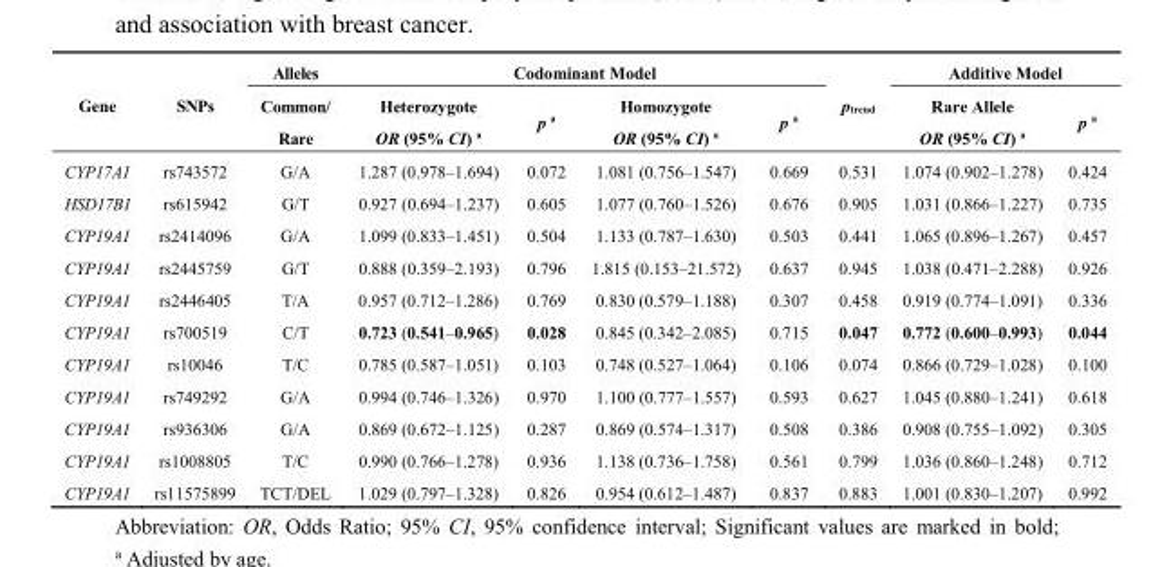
<table><thead><tr><td rowspan="2">Gene</td><td rowspan="2">SNPs</td><td rowspan="2">Alleles Common/ Rare</td><td colspan="4">Codominant Model</td><td rowspan="2">p<sub>trend</sub></td><td colspan="2">Additive Model</td></tr><tr><td>Heterozygote OR (95% CI) <sup>a</sup></td><td>p <sup>a</sup></td><td>Homozygote OR (95% CI) <sup>a</sup></td><td>p <sup>a</sup></td><td>Rare Allele OR (95% CI) <sup>a</sup></td><td>p <sup>a</sup></td></tr></thead><tbody><tr><td>CYP17A1</td><td>rs743572</td><td>G/A</td><td>1.287 (0.978–1.694)</td><td>0.072</td><td>1.081 (0.756–1.547)</td><td>0.669</td><td>0.531</td><td>1.074 (0.902–1.278)</td><td>0.424</td></tr><tr><td>HSD17B1</td><td>rs615942</td><td>G/T</td><td>0.927 (0.694–1.237)</td><td>0.605</td><td>1.077 (0.760–1.526)</td><td>0.676</td><td>0.905</td><td>1.031 (0.866–1.227)</td><td>0.735</td></tr><tr><td>CYP19A1</td><td>rs2414096</td><td>G/A</td><td>1.099 (0.833–1.451)</td><td>0.504</td><td>1.133 (0.787–1.630)</td><td>0.503</td><td>0.441</td><td>1.065 (0.896–1.267)</td><td>0.457</td></tr><tr><td>CYP19A1</td><td>rs2445759</td><td>G/T</td><td>0.888 (0.359–2.193)</td><td>0.796</td><td>1.815 (0.153–21.572)</td><td>0.637</td><td>0.945</td><td>1.038 (0.471–2.288)</td><td>0.926</td></tr><tr><td>CYP19A1</td><td>rs2446405</td><td>T/A</td><td>0.957 (0.712–1.286)</td><td>0.769</td><td>0.830 (0.579–1.188)</td><td>0.307</td><td>0.458</td><td>0.919 (0.774–1.091)</td><td>0.336</td></tr><tr><td>CYP19A1</td><td>rs700519</td><td>C/T</td><td>0.723 (0.541–0.965)</td><td>0.028</td><td>0.845 (0.342–2.085)</td><td>0.715</td><td>0.047</td><td>0.772 (0.600–0.993)</td><td>0.044</td></tr><tr><td>CYP19A1</td><td>rs10046</td><td>T/C</td><td>0.785 (0.587–1.051)</td><td>0.103</td><td>0.748 (0.527–1.064)</td><td>0.106</td><td>0.074</td><td>0.866 (0.729–1.028)</td><td>0.100</td></tr><tr><td>CYP19A1</td><td>rs749292</td><td>G/A</td><td>0.994 (0.746–1.326)</td><td>0.970</td><td>1.100 (0.777–1.557)</td><td>0.593</td><td>0.627</td><td>1.045 (0.880–1.241)</td><td>0.618</td></tr><tr><td>CYP19A1</td><td>rs936306</td><td>G/A</td><td>0.869 (0.672–1.125)</td><td>0.287</td><td>0.869 (0.574–1.317)</td><td>0.508</td><td>0.386</td><td>0.908 (0.755–1.092)</td><td>0.305</td></tr><tr><td>CYP19A1</td><td>rs1008805</td><td>T/C</td><td>0.990 (0.766–1.278)</td><td>0.936</td><td>1.138 (0.736–1.758)</td><td>0.561</td><td>0.799</td><td>1.036 (0.860–1.248)</td><td>0.712</td></tr><tr><td>CYP19A1</td><td>rs11575899</td><td>TCT/DEL</td><td>1.029 (0.797–1.328)</td><td>0.826</td><td>0.954 (0.612–1.487)</td><td>0.837</td><td>0.883</td><td>1.001 (0.830–1.207)</td><td>0.992</td></tr></tbody></table>